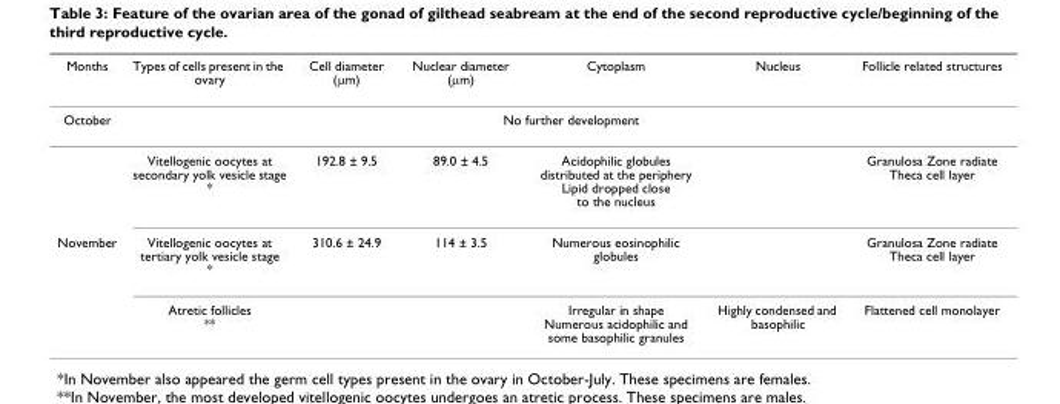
<table><thead><tr><td>Months</td><td>Types of cells present in the ovary</td><td>Cell diameter (μm)</td><td>Nuclear diameter (μm)</td><td>Cytoplasm</td><td>Nucleus</td><td>Follicle related structures</td></tr></thead><tbody><tr><td rowspan="2">October</td><td colspan="6">No further development</td></tr><tr><td>Vitellogenic oocytes at secondary yolk vesicle stage *</td><td>192.8 ± 9.5</td><td>89.0 ± 4.5</td><td>Acidophilic globules distributed at the periphery Lipid dropped close to the nucleus</td><td></td><td>Granulosa Zone radiate Theca cell layer</td></tr><tr><td rowspan="2">November</td><td>Vitellogenic oocytes at tertiary yolk vesicle stage *</td><td>310.6 ± 24.9</td><td>114 ± 3.5</td><td>Numerous eosinophilic globules</td><td></td><td>Granulosa Zone radiate Theca cell layer</td></tr><tr><td>Atretic follicles **</td><td></td><td></td><td>Irregular in shape Numerous acidophilic and some basophilic granules</td><td>Highly condensed and basophilic</td><td>Flattened cell monolayer</td></tr></tbody></table>